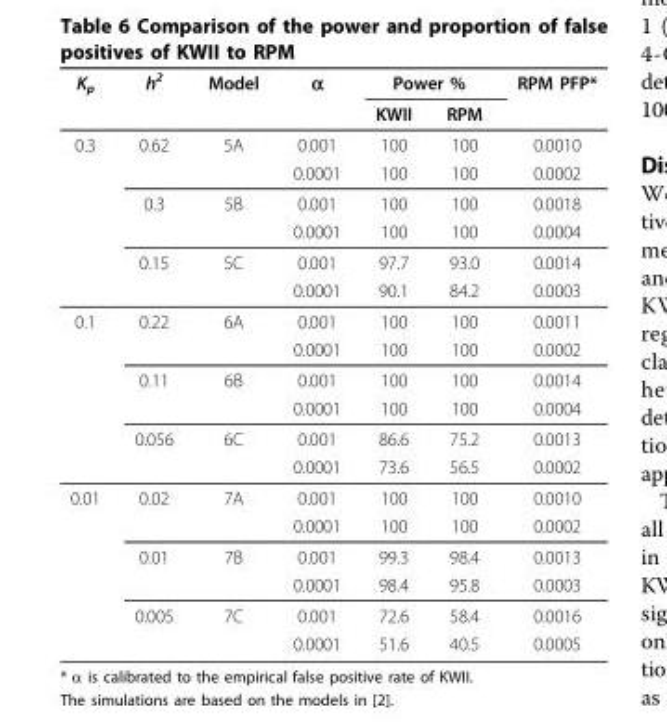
<table><thead><tr><td rowspan="2">K<sub>p</sub></td><td rowspan="2">h<sup>2</sup></td><td rowspan="2">Model</td><td rowspan="2">α</td><td colspan="2">Power %</td><td rowspan="2">RPM PFP*</td></tr><tr><td>KWII</td><td>RPM</td></tr></thead><tbody><tr><td rowspan="6">0.3</td><td>0.62</td><td>5A</td><td>0.001</td><td>100</td><td>100</td><td>0.0010</td></tr><tr><td></td><td></td><td>0.0001</td><td>100</td><td>100</td><td>0.0002</td></tr><tr><td>0.3</td><td>5B</td><td>0.001</td><td>100</td><td>100</td><td>0.0018</td></tr><tr><td></td><td></td><td>0.0001</td><td>100</td><td>100</td><td>0.0004</td></tr><tr><td>0.15</td><td>5C</td><td>0.001</td><td>97.7</td><td>93.0</td><td>0.0014</td></tr><tr><td></td><td></td><td>0.0001</td><td>90.1</td><td>84.2</td><td>0.0003</td></tr><tr><td rowspan="6">0.1</td><td>0.22</td><td>6A</td><td>0.001</td><td>100</td><td>100</td><td>0.0011</td></tr><tr><td></td><td></td><td>0.0001</td><td>100</td><td>100</td><td>0.0002</td></tr><tr><td>0.11</td><td>6B</td><td>0.001</td><td>100</td><td>100</td><td>0.0014</td></tr><tr><td></td><td></td><td>0.0001</td><td>100</td><td>100</td><td>0.0004</td></tr><tr><td>0.056</td><td>6C</td><td>0.001</td><td>86.6</td><td>75.2</td><td>0.0013</td></tr><tr><td></td><td></td><td>0.0001</td><td>73.6</td><td>56.5</td><td>0.0002</td></tr><tr><td rowspan="6">0.01</td><td>0.02</td><td>7A</td><td>0.001</td><td>100</td><td>100</td><td>0.0010</td></tr><tr><td></td><td></td><td>0.0001</td><td>100</td><td>100</td><td>0.0002</td></tr><tr><td>0.01</td><td>7B</td><td>0.001</td><td>99.3</td><td>98.4</td><td>0.0013</td></tr><tr><td></td><td></td><td>0.0001</td><td>98.4</td><td>95.8</td><td>0.0003</td></tr><tr><td>0.005</td><td>7C</td><td>0.001</td><td>72.6</td><td>58.4</td><td>0.0016</td></tr><tr><td></td><td></td><td>0.0001</td><td>51.6</td><td>40.5</td><td>0.0005</td></tr></tbody></table>